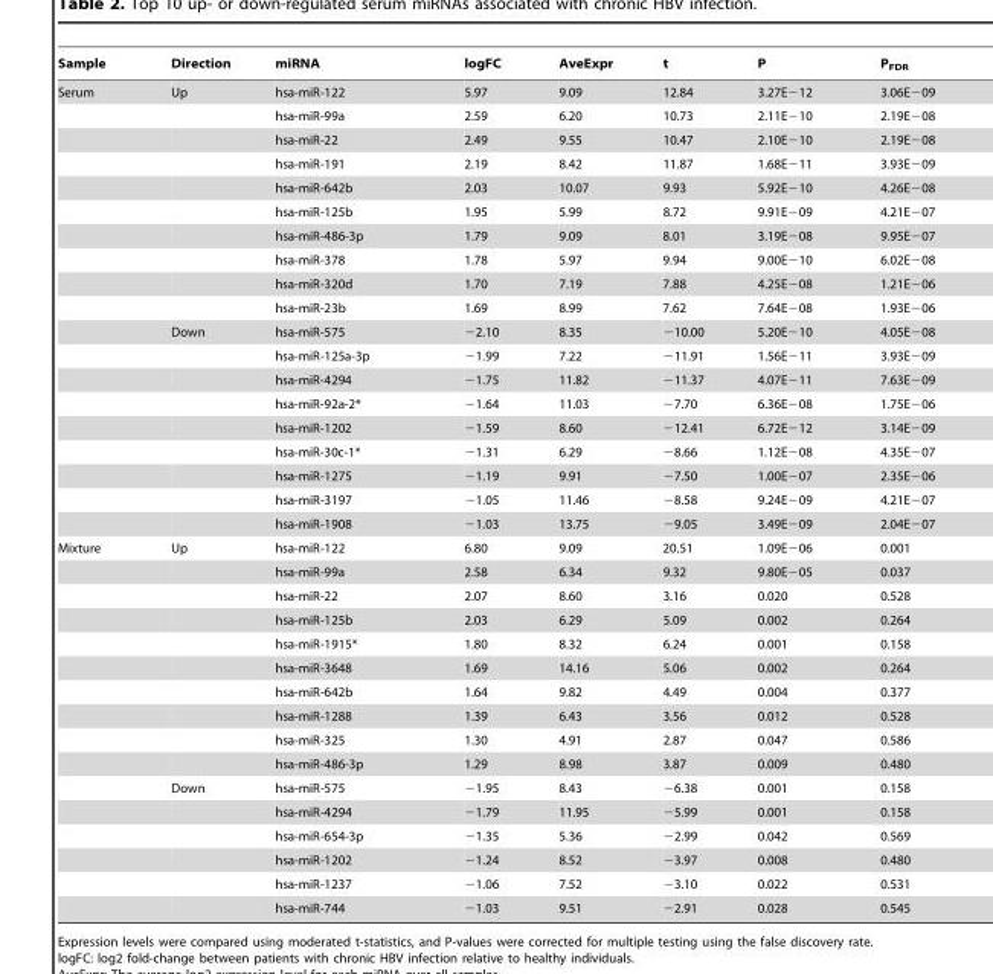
<table><thead><tr><td>Sample</td><td>Direction</td><td>miRNA</td><td>logFC</td><td>AveExpr</td><td>t</td><td>P</td><td>P<sub>FDR</sub></td></tr></thead><tbody><tr><td rowspan="19">Serum</td><td>Up</td><td>hsa-miR-122</td><td>5.97</td><td>9.09</td><td>12.84</td><td>3.27E−12</td><td>3.06E−09</td></tr><tr><td></td><td>hsa-miR-99a</td><td>2.59</td><td>6.20</td><td>10.73</td><td>2.11E−10</td><td>2.19E−08</td></tr><tr><td></td><td>hsa-miR-22</td><td>2.49</td><td>9.55</td><td>10.47</td><td>2.10E−10</td><td>2.19E−08</td></tr><tr><td></td><td>hsa-miR-191</td><td>2.19</td><td>8.42</td><td>11.87</td><td>1.68E−11</td><td>3.93E−09</td></tr><tr><td></td><td>hsa-miR-642b</td><td>2.03</td><td>10.07</td><td>9.93</td><td>5.92E−10</td><td>4.26E−08</td></tr><tr><td></td><td>hsa-miR-125b</td><td>1.95</td><td>5.99</td><td>8.72</td><td>9.91E−09</td><td>4.21E−07</td></tr><tr><td></td><td>hsa-miR-486-3p</td><td>1.79</td><td>9.09</td><td>8.01</td><td>3.19E−08</td><td>9.95E−07</td></tr><tr><td></td><td>hsa-miR-378</td><td>1.78</td><td>5.97</td><td>9.94</td><td>9.00E−10</td><td>6.02E−08</td></tr><tr><td></td><td>hsa-miR-320d</td><td>1.70</td><td>7.19</td><td>7.88</td><td>4.25E−08</td><td>1.21E−06</td></tr><tr><td></td><td>hsa-miR-23b</td><td>1.69</td><td>8.99</td><td>7.62</td><td>7.64E−08</td><td>1.93E−06</td></tr><tr><td>Down</td><td>hsa-miR-575</td><td>−2.10</td><td>8.35</td><td>−10.00</td><td>5.20E−10</td><td>4.05E−08</td></tr><tr><td></td><td>hsa-miR-125a-3p</td><td>−1.99</td><td>7.22</td><td>−11.91</td><td>1.56E−11</td><td>3.93E−09</td></tr><tr><td></td><td>hsa-miR-4294</td><td>−1.75</td><td>11.82</td><td>−11.37</td><td>4.07E−11</td><td>7.63E−09</td></tr><tr><td></td><td>hsa-miR-92a-2*</td><td>−1.64</td><td>11.03</td><td>−7.70</td><td>6.36E−08</td><td>1.75E−06</td></tr><tr><td></td><td>hsa-miR-1202</td><td>−1.59</td><td>8.60</td><td>−12.41</td><td>6.72E−12</td><td>3.14E−09</td></tr><tr><td></td><td>hsa-miR-30c-1*</td><td>−1.31</td><td>6.29</td><td>−8.66</td><td>1.12E−08</td><td>4.35E−07</td></tr><tr><td></td><td>hsa-miR-1275</td><td>−1.19</td><td>9.91</td><td>−7.50</td><td>1.00E−07</td><td>2.35E−06</td></tr><tr><td></td><td>hsa-miR-3197</td><td>−1.05</td><td>11.46</td><td>−8.58</td><td>9.24E−09</td><td>4.21E−07</td></tr><tr><td></td><td>hsa-miR-1908</td><td>−1.03</td><td>13.75</td><td>−9.05</td><td>3.49E−09</td><td>2.04E−07</td></tr><tr><td rowspan="16">Mixture</td><td>Up</td><td>hsa-miR-122</td><td>6.80</td><td>9.09</td><td>20.51</td><td>1.09E−06</td><td>0.001</td></tr><tr><td></td><td>hsa-miR-99a</td><td>2.58</td><td>6.34</td><td>9.32</td><td>9.80E−05</td><td>0.037</td></tr><tr><td></td><td>hsa-miR-22</td><td>2.07</td><td>8.60</td><td>3.16</td><td>0.020</td><td>0.528</td></tr><tr><td></td><td>hsa-miR-125b</td><td>2.03</td><td>6.29</td><td>5.09</td><td>0.002</td><td>0.264</td></tr><tr><td></td><td>hsa-miR-1915*</td><td>1.80</td><td>8.32</td><td>6.24</td><td>0.001</td><td>0.158</td></tr><tr><td></td><td>hsa-miR-3648</td><td>1.69</td><td>14.16</td><td>5.06</td><td>0.002</td><td>0.264</td></tr><tr><td></td><td>hsa-miR-642b</td><td>1.64</td><td>9.82</td><td>4.49</td><td>0.004</td><td>0.377</td></tr><tr><td></td><td>hsa-miR-1288</td><td>1.39</td><td>6.43</td><td>3.56</td><td>0.012</td><td>0.528</td></tr><tr><td></td><td>hsa-miR-325</td><td>1.30</td><td>4.91</td><td>2.87</td><td>0.047</td><td>0.586</td></tr><tr><td></td><td>hsa-miR-486-3p</td><td>1.29</td><td>8.98</td><td>3.87</td><td>0.009</td><td>0.480</td></tr><tr><td>Down</td><td>hsa-miR-575</td><td>−1.95</td><td>8.43</td><td>−6.38</td><td>0.001</td><td>0.158</td></tr><tr><td></td><td>hsa-miR-4294</td><td>−1.79</td><td>11.95</td><td>−5.99</td><td>0.001</td><td>0.158</td></tr><tr><td></td><td>hsa-miR-654-3p</td><td>−1.35</td><td>5.36</td><td>−2.99</td><td>0.042</td><td>0.569</td></tr><tr><td></td><td>hsa-miR-1202</td><td>−1.24</td><td>8.52</td><td>−3.97</td><td>0.008</td><td>0.480</td></tr><tr><td></td><td>hsa-miR-1237</td><td>−1.06</td><td>7.52</td><td>−3.10</td><td>0.022</td><td>0.531</td></tr><tr><td></td><td>hsa-miR-744</td><td>−1.03</td><td>9.51</td><td>−2.91</td><td>0.028</td><td>0.545</td></tr></tbody></table>